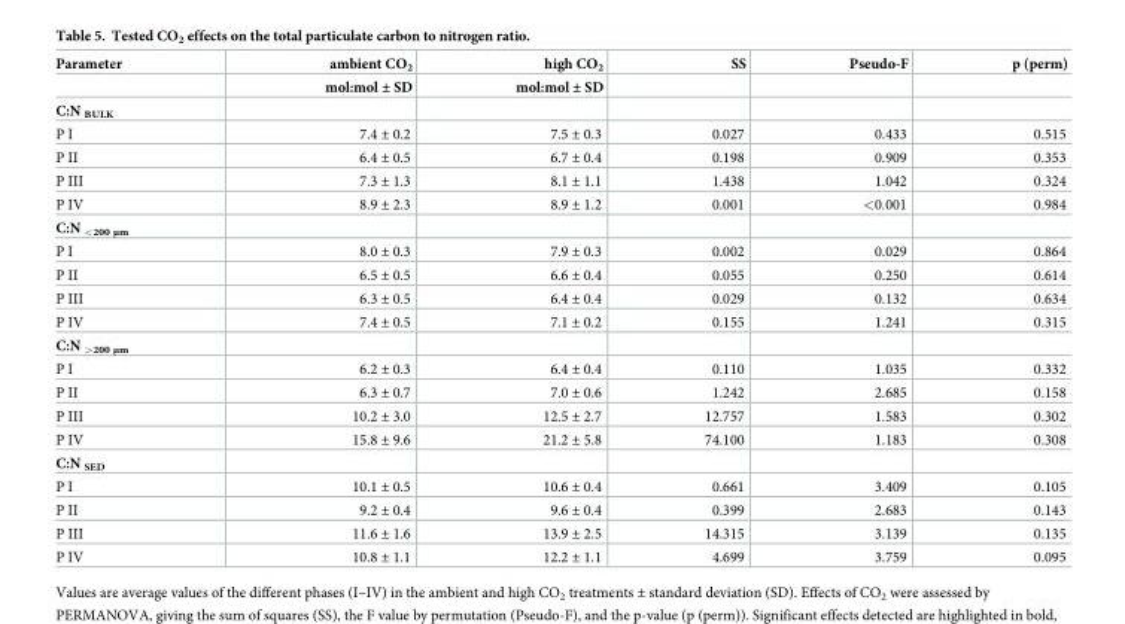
<table><thead><tr><td rowspan="2">Parameter</td><td rowspan="2">ambient CO<sub>2</sub> mol:mol ± SD</td><td rowspan="2">high CO<sub>2</sub> mol:mol ± SD</td><td rowspan="2">SS</td><td rowspan="2">Pseudo-F</td><td rowspan="2">p (perm)</td></tr><tr></tr></thead><tbody><tr><td colspan="6">C:N <sub>BULK</sub></td></tr><tr><td>P I</td><td>7.4 ± 0.2</td><td>7.5 ± 0.3</td><td>0.027</td><td>0.433</td><td>0.515</td></tr><tr><td>P II</td><td>6.4 ± 0.5</td><td>6.7 ± 0.4</td><td>0.198</td><td>0.909</td><td>0.353</td></tr><tr><td>P III</td><td>7.3 ± 1.3</td><td>8.1 ± 1.1</td><td>1.438</td><td>1.042</td><td>0.324</td></tr><tr><td>P IV</td><td>8.9 ± 2.3</td><td>8.9 ± 1.2</td><td>0.001</td><td>&lt;0.001</td><td>0.984</td></tr><tr><td colspan="6">C:N <sub>&lt;200 μm</sub></td></tr><tr><td>P I</td><td>8.0 ± 0.3</td><td>7.9 ± 0.3</td><td>0.002</td><td>0.029</td><td>0.864</td></tr><tr><td>P II</td><td>6.5 ± 0.5</td><td>6.6 ± 0.4</td><td>0.055</td><td>0.250</td><td>0.614</td></tr><tr><td>P III</td><td>6.3 ± 0.5</td><td>6.4 ± 0.4</td><td>0.029</td><td>0.132</td><td>0.634</td></tr><tr><td>P IV</td><td>7.4 ± 0.5</td><td>7.1 ± 0.2</td><td>0.155</td><td>1.241</td><td>0.315</td></tr><tr><td colspan="6">C:N <sub>&gt;200 μm</sub></td></tr><tr><td>P I</td><td>6.2 ± 0.3</td><td>6.4 ± 0.4</td><td>0.110</td><td>1.035</td><td>0.332</td></tr><tr><td>P II</td><td>6.3 ± 0.7</td><td>7.0 ± 0.6</td><td>1.242</td><td>2.685</td><td>0.158</td></tr><tr><td>P III</td><td>10.2 ± 3.0</td><td>12.5 ± 2.7</td><td>12.757</td><td>1.583</td><td>0.302</td></tr><tr><td>P IV</td><td>15.8 ± 9.6</td><td>21.2 ± 5.8</td><td>74.100</td><td>1.183</td><td>0.308</td></tr><tr><td colspan="6">C:N <sub>SED</sub></td></tr><tr><td>P I</td><td>10.1 ± 0.5</td><td>10.6 ± 0.4</td><td>0.661</td><td>3.409</td><td>0.105</td></tr><tr><td>P II</td><td>9.2 ± 0.4</td><td>9.6 ± 0.4</td><td>0.399</td><td>2.683</td><td>0.143</td></tr><tr><td>P III</td><td>11.6 ± 1.6</td><td>13.9 ± 2.5</td><td>14.315</td><td>3.139</td><td>0.135</td></tr><tr><td>P IV</td><td>10.8 ± 1.1</td><td>12.2 ± 1.1</td><td>4.699</td><td>3.759</td><td>0.095</td></tr></tbody></table>